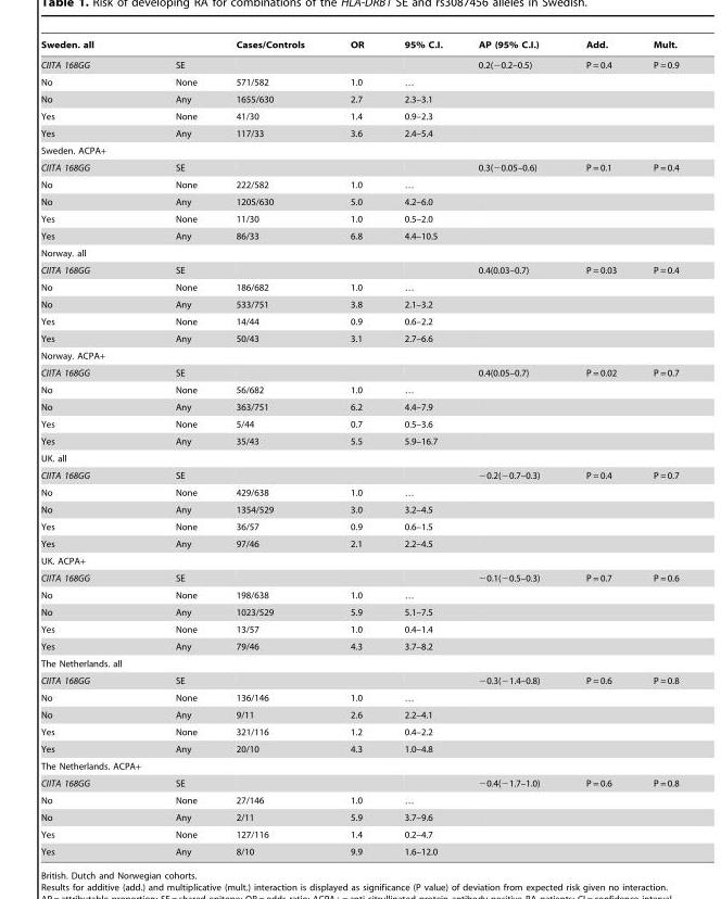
<table><thead><tr><td>Sweden. all</td><td></td><td>Cases/Controls</td><td>OR</td><td>95% C.I.</td><td>AP (95% C.I.)</td><td>Add.</td><td>Mult.</td></tr></thead><tbody><tr><td>CIITA 168GG</td><td>SE</td><td></td><td></td><td></td><td>0.2(−0.2–0.5)</td><td>P = 0.4</td><td>P = 0.9</td></tr><tr><td>No</td><td>None</td><td>571/582</td><td>1.0</td><td>…</td><td></td><td></td><td></td></tr><tr><td>No</td><td>Any</td><td>1655/630</td><td>2.7</td><td>2.3–3.1</td><td></td><td></td><td></td></tr><tr><td>Yes</td><td>None</td><td>41/30</td><td>1.4</td><td>0.9–2.3</td><td></td><td></td><td></td></tr><tr><td>Yes</td><td>Any</td><td>117/33</td><td>3.6</td><td>2.4–5.4</td><td></td><td></td><td></td></tr><tr><td colspan="8">Sweden. ACPA+</td></tr><tr><td>CIITA 168GG</td><td>SE</td><td></td><td></td><td></td><td>0.3(−0.05–0.6)</td><td>P = 0.1</td><td>P = 0.4</td></tr><tr><td>No</td><td>None</td><td>222/582</td><td>1.0</td><td>…</td><td></td><td></td><td></td></tr><tr><td>No</td><td>Any</td><td>1205/630</td><td>5.0</td><td>4.2–6.0</td><td></td><td></td><td></td></tr><tr><td>Yes</td><td>None</td><td>11/30</td><td>1.0</td><td>0.5–2.0</td><td></td><td></td><td></td></tr><tr><td>Yes</td><td>Any</td><td>86/33</td><td>6.8</td><td>4.4–10.5</td><td></td><td></td><td></td></tr><tr><td colspan="8">Norway. all</td></tr><tr><td>CIITA 168GG</td><td>SE</td><td></td><td></td><td></td><td>0.4(0.03–0.7)</td><td>P = 0.03</td><td>P = 0.4</td></tr><tr><td>No</td><td>None</td><td>186/682</td><td>1.0</td><td>…</td><td></td><td></td><td></td></tr><tr><td>No</td><td>Any</td><td>533/751</td><td>3.8</td><td>2.1–3.2</td><td></td><td></td><td></td></tr><tr><td>Yes</td><td>None</td><td>14/44</td><td>0.9</td><td>0.6–2.2</td><td></td><td></td><td></td></tr><tr><td>Yes</td><td>Any</td><td>50/43</td><td>3.1</td><td>2.7–6.6</td><td></td><td></td><td></td></tr><tr><td colspan="8">Norway. ACPA+</td></tr><tr><td>CIITA 168GG</td><td>SE</td><td></td><td></td><td></td><td>0.4(0.05–0.7)</td><td>P = 0.02</td><td>P = 0.7</td></tr><tr><td>No</td><td>None</td><td>56/682</td><td>1.0</td><td>…</td><td></td><td></td><td></td></tr><tr><td>No</td><td>Any</td><td>363/751</td><td>6.2</td><td>4.4–7.9</td><td></td><td></td><td></td></tr><tr><td>Yes</td><td>None</td><td>5/44</td><td>0.7</td><td>0.5–3.6</td><td></td><td></td><td></td></tr><tr><td>Yes</td><td>Any</td><td>35/43</td><td>5.5</td><td>5.9–16.7</td><td></td><td></td><td></td></tr><tr><td colspan="8">UK. all</td></tr><tr><td>CIITA 168GG</td><td>SE</td><td></td><td></td><td></td><td>−0.2(−0.7–0.3)</td><td>P = 0.4</td><td>P = 0.7</td></tr><tr><td>No</td><td>None</td><td>429/638</td><td>1.0</td><td>…</td><td></td><td></td><td></td></tr><tr><td>No</td><td>Any</td><td>1354/529</td><td>3.0</td><td>3.2–4.5</td><td></td><td></td><td></td></tr><tr><td>Yes</td><td>None</td><td>36/57</td><td>0.9</td><td>0.6–1.5</td><td></td><td></td><td></td></tr><tr><td>Yes</td><td>Any</td><td>97/46</td><td>2.1</td><td>2.2–4.5</td><td></td><td></td><td></td></tr><tr><td colspan="8">UK. ACPA+</td></tr><tr><td>CIITA 168GG</td><td>SE</td><td></td><td></td><td></td><td>−0.1(−0.5–0.3)</td><td>P = 0.7</td><td>P = 0.6</td></tr><tr><td>No</td><td>None</td><td>198/638</td><td>1.0</td><td>…</td><td></td><td></td><td></td></tr><tr><td>No</td><td>Any</td><td>1023/529</td><td>5.9</td><td>5.1–7.5</td><td></td><td></td><td></td></tr><tr><td>Yes</td><td>None</td><td>13/57</td><td>1.0</td><td>0.4–1.4</td><td></td><td></td><td></td></tr><tr><td>Yes</td><td>Any</td><td>79/46</td><td>4.3</td><td>3.7–8.2</td><td></td><td></td><td></td></tr><tr><td colspan="8">The Netherlands. all</td></tr><tr><td>CIITA 168GG</td><td>SE</td><td></td><td></td><td></td><td>−0.3(−1.4–0.8)</td><td>P = 0.6</td><td>P = 0.8</td></tr><tr><td>No</td><td>None</td><td>136/146</td><td>1.0</td><td>…</td><td></td><td></td><td></td></tr><tr><td>No</td><td>Any</td><td>9/11</td><td>2.6</td><td>2.2–4.1</td><td></td><td></td><td></td></tr><tr><td>Yes</td><td>None</td><td>321/116</td><td>1.2</td><td>0.4–2.2</td><td></td><td></td><td></td></tr><tr><td>Yes</td><td>Any</td><td>20/10</td><td>4.3</td><td>1.0–4.8</td><td></td><td></td><td></td></tr><tr><td colspan="8">The Netherlands. ACPA+</td></tr><tr><td>CIITA 168GG</td><td>SE</td><td></td><td></td><td></td><td>−0.4(−1.7–1.0)</td><td>P = 0.6</td><td>P = 0.8</td></tr><tr><td>No</td><td>None</td><td>27/146</td><td>1.0</td><td>…</td><td></td><td></td><td></td></tr><tr><td>No</td><td>Any</td><td>2/11</td><td>5.9</td><td>3.7–9.6</td><td></td><td></td><td></td></tr><tr><td>Yes</td><td>None</td><td>127/116</td><td>1.4</td><td>0.2–4.7</td><td></td><td></td><td></td></tr><tr><td>Yes</td><td>Any</td><td>8/10</td><td>9.9</td><td>1.6–12.0</td><td></td><td></td><td></td></tr></tbody></table>